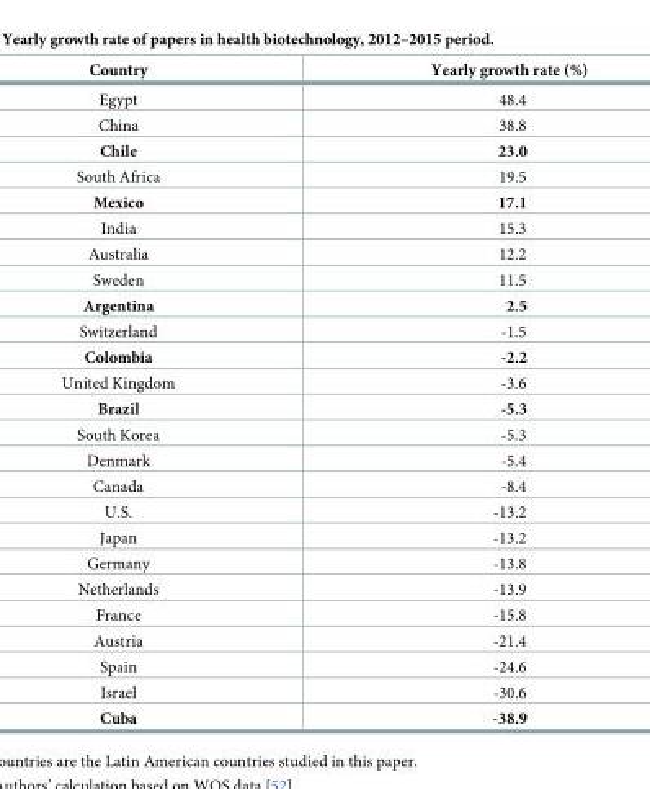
<table><thead><tr><td>Country</td><td>Yearly growth rate (%)</td></tr></thead><tbody><tr><td>Egypt</td><td>48.4</td></tr><tr><td>China</td><td>38.8</td></tr><tr><td>Chile</td><td>23.0</td></tr><tr><td>South Africa</td><td>19.5</td></tr><tr><td>Mexico</td><td>17.1</td></tr><tr><td>India</td><td>15.3</td></tr><tr><td>Australia</td><td>12.2</td></tr><tr><td>Sweden</td><td>11.5</td></tr><tr><td>Argentina</td><td>2.5</td></tr><tr><td>Switzerland</td><td>-1.5</td></tr><tr><td>Colombia</td><td>-2.2</td></tr><tr><td>United Kingdom</td><td>-3.6</td></tr><tr><td>Brazil</td><td>-5.3</td></tr><tr><td>South Korea</td><td>-5.3</td></tr><tr><td>Denmark</td><td>-5.4</td></tr><tr><td>Canada</td><td>-8.4</td></tr><tr><td>U.S.</td><td>-13.2</td></tr><tr><td>Japan</td><td>-13.2</td></tr><tr><td>Germany</td><td>-13.8</td></tr><tr><td>Netherlands</td><td>-13.9</td></tr><tr><td>France</td><td>-15.8</td></tr><tr><td>Austria</td><td>-21.4</td></tr><tr><td>Spain</td><td>-24.6</td></tr><tr><td>Israel</td><td>-30.6</td></tr><tr><td>Cuba</td><td>-38.9</td></tr></tbody></table>